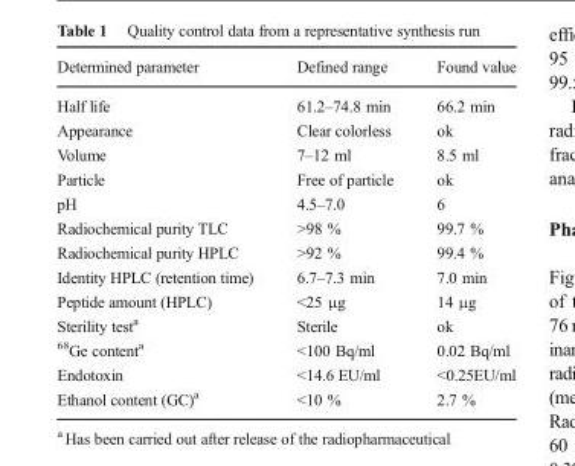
<table><thead><tr><td>Determined parameter</td><td>Defined range</td><td>Found value</td></tr></thead><tbody><tr><td>Half life</td><td>61.2–74.8 min</td><td>66.2 min</td></tr><tr><td>Appearance</td><td>Clear colorless</td><td>ok</td></tr><tr><td>Volume</td><td>7–12 ml</td><td>8.5 ml</td></tr><tr><td>Particle</td><td>Free of particle</td><td>ok</td></tr><tr><td>pH</td><td>4.5–7.0</td><td>6</td></tr><tr><td>Radiochemical purity TLC</td><td>&gt;98 %</td><td>99.7 %</td></tr><tr><td>Radiochemical purity HPLC</td><td>&gt;92 %</td><td>99.4 %</td></tr><tr><td>Identity HPLC (retention time)</td><td>6.7–7.3 min</td><td>7.0 min</td></tr><tr><td>Peptide amount (HPLC)</td><td>&lt;25 μg</td><td>14 μg</td></tr><tr><td>Sterility test<sup>a</sup></td><td>Sterile</td><td>ok</td></tr><tr><td><sup>68</sup>Ge content<sup>a</sup></td><td>&lt;100 Bq/ml</td><td>0.02 Bq/ml</td></tr><tr><td>Endotoxin</td><td>&lt;14.6 EU/ml</td><td>&lt;0.25EU/ml</td></tr><tr><td>Ethanol content (GC)<sup>a</sup></td><td>&lt;10 %</td><td>2.7 %</td></tr></tbody></table>